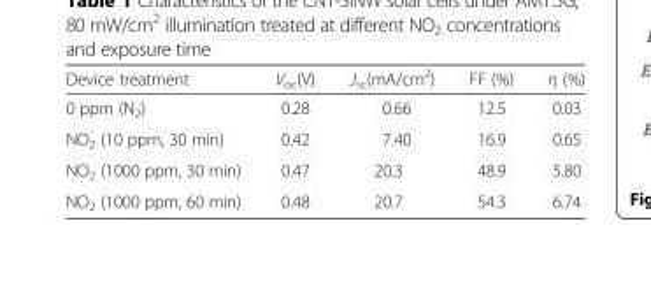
<table><thead><tr><td>Device treatment</td><td>V<sub>oc</sub>(V)</td><td>J<sub>sc</sub>(mA/cm<sup>2</sup>)</td><td>FF (%)</td><td>η (%)</td></tr></thead><tbody><tr><td>0 ppm (N<sub>2</sub>)</td><td>0.28</td><td>0.66</td><td>12.5</td><td>0.03</td></tr><tr><td>NO<sub>2</sub> (10 ppm, 30 min)</td><td>0.42</td><td>7.40</td><td>16.9</td><td>0.65</td></tr><tr><td>NO<sub>2</sub> (1000 ppm, 30 min)</td><td>0.47</td><td>20.3</td><td>48.9</td><td>5.80</td></tr><tr><td>NO<sub>2</sub> (1000 ppm, 60 min)</td><td>0.48</td><td>20.7</td><td>54.3</td><td>6.74</td></tr></tbody></table>